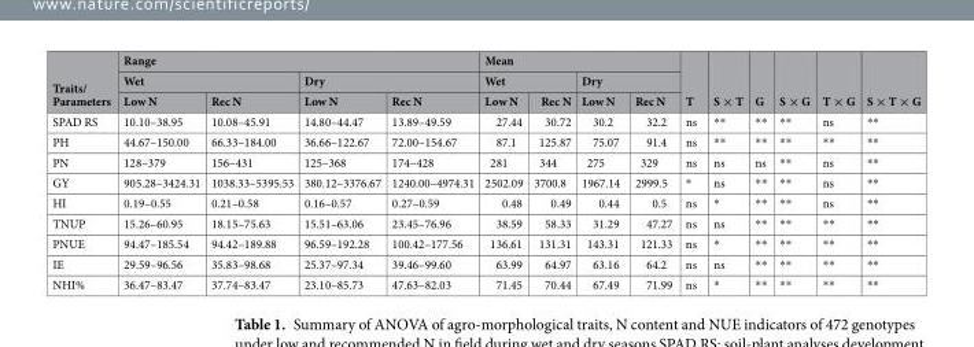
<table><thead><tr><td rowspan="3">Traits/ Parameters</td><td colspan="4">Range</td><td colspan="4">Mean</td><td rowspan="3">T</td><td rowspan="3">S × T</td><td rowspan="3">G</td><td rowspan="3">S × G</td><td rowspan="3">T × G</td><td rowspan="3">S × T × G</td></tr><tr><td colspan="2">Wet</td><td colspan="2">Dry</td><td colspan="2">Wet</td><td colspan="2">Dry</td></tr><tr><td>Low N</td><td>Rec N</td><td>Low N</td><td>Rec N</td><td>Low N</td><td>Rec N</td><td>Low N</td><td>Rec N</td></tr></thead><tbody><tr><td>SPAD RS</td><td>10.10–38.95</td><td>10.08–45.91</td><td>14.80–44.47</td><td>13.89–49.59</td><td>27.44</td><td>30.72</td><td>30.2</td><td>32.2</td><td>ns</td><td>**</td><td>**</td><td>**</td><td>ns</td><td>**</td></tr><tr><td>PH</td><td>44.67–150.00</td><td>66.33–184.00</td><td>36.66–122.67</td><td>72.00–154.67</td><td>87.1</td><td>125.87</td><td>75.07</td><td>91.4</td><td>ns</td><td>**</td><td>**</td><td>**</td><td>**</td><td>**</td></tr><tr><td>PN</td><td>128–379</td><td>156–431</td><td>125–368</td><td>174–428</td><td>281</td><td>344</td><td>275</td><td>329</td><td>ns</td><td>ns</td><td>ns</td><td>**</td><td>ns</td><td>**</td></tr><tr><td>GY</td><td>905.28–3424.31</td><td>1038.33–5395.53</td><td>380.12–3376.67</td><td>1240.00–4974.31</td><td>2502.09</td><td>3700.8</td><td>1967.14</td><td>2999.5</td><td>*</td><td>ns</td><td>**</td><td>**</td><td>ns</td><td>**</td></tr><tr><td>HI</td><td>0.19–0.55</td><td>0.21–0.58</td><td>0.16–0.57</td><td>0.27–0.59</td><td>0.48</td><td>0.49</td><td>0.44</td><td>0.5</td><td>ns</td><td>*</td><td>**</td><td>**</td><td>ns</td><td>**</td></tr><tr><td>TNUP</td><td>15.26–60.95</td><td>18.15–75.63</td><td>15.51–63.06</td><td>23.45–76.96</td><td>38.59</td><td>58.33</td><td>31.29</td><td>47.27</td><td>ns</td><td>ns</td><td>**</td><td>**</td><td>**</td><td>**</td></tr><tr><td>PNUE</td><td>94.47–185.54</td><td>94.42–189.88</td><td>96.59–192.28</td><td>100.42–177.56</td><td>136.61</td><td>131.31</td><td>143.31</td><td>121.33</td><td>ns</td><td>*</td><td>**</td><td>**</td><td>**</td><td>**</td></tr><tr><td>IE</td><td>29.59–96.56</td><td>35.83–98.68</td><td>25.37–97.34</td><td>39.46–99.60</td><td>63.99</td><td>64.97</td><td>63.16</td><td>64.2</td><td>ns</td><td>ns</td><td>**</td><td>**</td><td>**</td><td>**</td></tr><tr><td>NHI%</td><td>36.47–83.47</td><td>37.74–83.47</td><td>23.10–85.73</td><td>47.63–82.03</td><td>71.45</td><td>70.44</td><td>67.49</td><td>71.99</td><td>ns</td><td>*</td><td>**</td><td>**</td><td>**</td><td>**</td></tr></tbody></table>